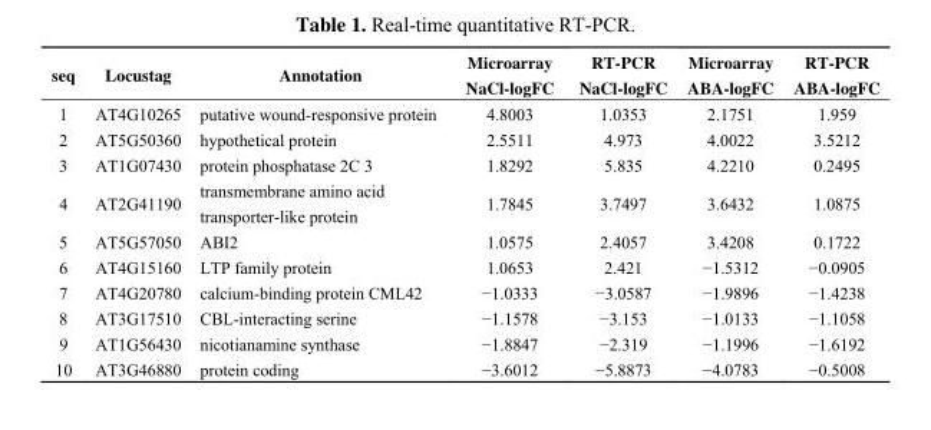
<table><thead><tr><td>seq</td><td>Locustag</td><td>Annotation</td><td>Microarray NaCl-logFC</td><td>RT-PCR NaCl-logFC</td><td>Microarray ABA-logFC</td><td>RT-PCR ABA-logFC</td></tr></thead><tbody><tr><td>1</td><td>AT4G10265</td><td>putative wound-responsive protein</td><td>4.8003</td><td>1.0353</td><td>2.1751</td><td>1.959</td></tr><tr><td>2</td><td>AT5G50360</td><td>hypothetical protein</td><td>2.5511</td><td>4.973</td><td>4.0022</td><td>3.5212</td></tr><tr><td>3</td><td>AT1G07430</td><td>protein phosphatase 2C 3</td><td>1.8292</td><td>5.835</td><td>4.2210</td><td>0.2495</td></tr><tr><td>4</td><td>AT2G41190</td><td>transmembrane amino acid transporter-like protein</td><td>1.7845</td><td>3.7497</td><td>3.6432</td><td>1.0875</td></tr><tr><td>5</td><td>AT5G57050</td><td>ABI2</td><td>1.0575</td><td>2.4057</td><td>3.4208</td><td>0.1722</td></tr><tr><td>6</td><td>AT4G15160</td><td>LTP family protein</td><td>1.0653</td><td>2.421</td><td>−1.5312</td><td>−0.0905</td></tr><tr><td>7</td><td>AT4G20780</td><td>calcium-binding protein CML42</td><td>−1.0333</td><td>−3.0587</td><td>−1.9896</td><td>−1.4238</td></tr><tr><td>8</td><td>AT3G17510</td><td>CBL-interacting serine</td><td>−1.1578</td><td>−3.153</td><td>−1.0133</td><td>−1.1058</td></tr><tr><td>9</td><td>AT1G56430</td><td>nicotianamine synthase</td><td>−1.8847</td><td>−2.319</td><td>−1.1996</td><td>−1.6192</td></tr><tr><td>10</td><td>AT3G46880</td><td>protein coding</td><td>−3.6012</td><td>−5.8873</td><td>−4.0783</td><td>−0.5008</td></tr></tbody></table>